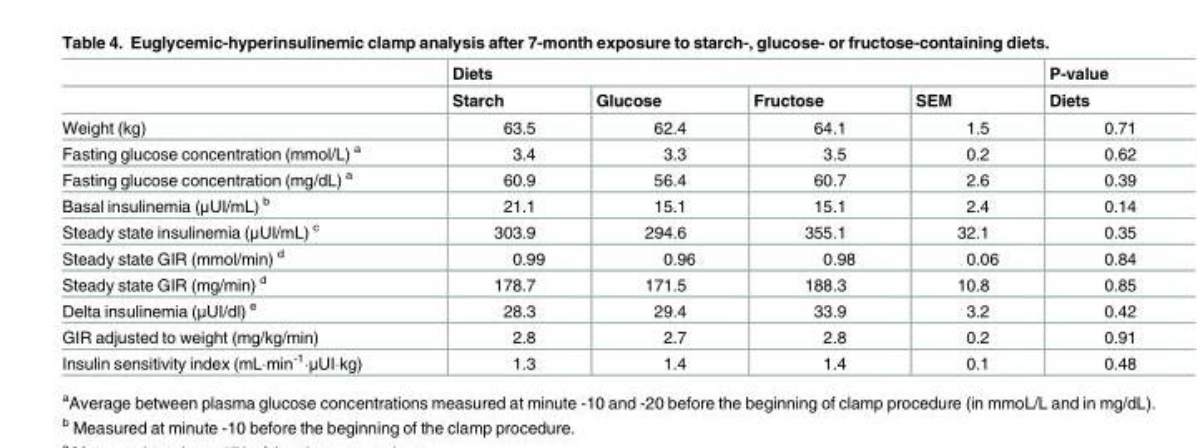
<table><thead><tr><td rowspan="2"></td><td colspan="4">Diets</td><td rowspan="2">P-value Diets</td></tr><tr><td>Starch</td><td>Glucose</td><td>Fructose</td><td>SEM</td></tr></thead><tbody><tr><td>Weight (kg)</td><td>63.5</td><td>62.4</td><td>64.1</td><td>1.5</td><td>0.71</td></tr><tr><td>Fasting glucose concentration (mmol/L) <sup>a</sup></td><td>3.4</td><td>3.3</td><td>3.5</td><td>0.2</td><td>0.62</td></tr><tr><td>Fasting glucose concentration (mg/dL) <sup>a</sup></td><td>60.9</td><td>56.4</td><td>60.7</td><td>2.6</td><td>0.39</td></tr><tr><td>Basal insulinemia (μUI/mL) <sup>b</sup></td><td>21.1</td><td>15.1</td><td>15.1</td><td>2.4</td><td>0.14</td></tr><tr><td>Steady state insulinemia (μUI/mL) <sup>c</sup></td><td>303.9</td><td>294.6</td><td>355.1</td><td>32.1</td><td>0.35</td></tr><tr><td>Steady state GIR (mmol/min) <sup>d</sup></td><td>0.99</td><td>0.96</td><td>0.98</td><td>0.06</td><td>0.84</td></tr><tr><td>Steady state GIR (mg/min) <sup>d</sup></td><td>178.7</td><td>171.5</td><td>188.3</td><td>10.8</td><td>0.85</td></tr><tr><td>Delta insulinemia (μUI/dl) <sup>e</sup></td><td>28.3</td><td>29.4</td><td>33.9</td><td>3.2</td><td>0.42</td></tr><tr><td>GIR adjusted to weight (mg/kg/min)</td><td>2.8</td><td>2.7</td><td>2.8</td><td>0.2</td><td>0.91</td></tr><tr><td>Insulin sensitivity index (mL·min<sup>-1</sup>·μUI·kg)</td><td>1.3</td><td>1.4</td><td>1.4</td><td>0.1</td><td>0.48</td></tr></tbody></table>